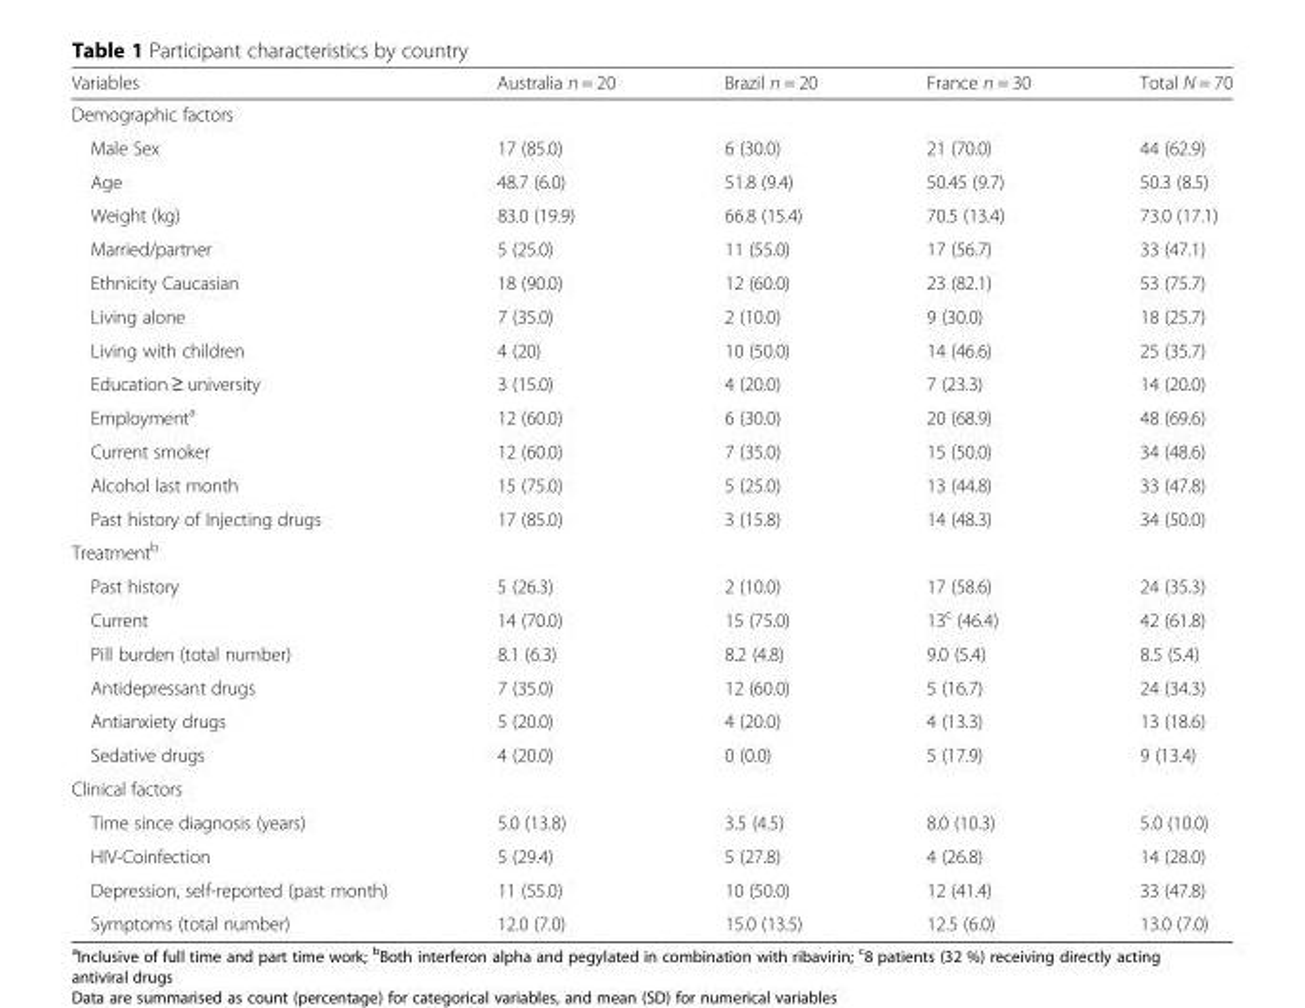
<table><thead><tr><td>Variables</td><td>Australia n = 20</td><td>Brazil n = 20</td><td>France n = 30</td><td>Total N = 70</td></tr></thead><tbody><tr><td colspan="5">Demographic factors</td></tr><tr><td>Male Sex</td><td>17 (85.0)</td><td>6 (30.0)</td><td>21 (70.0)</td><td>44 (62.9)</td></tr><tr><td>Age</td><td>48.7 (6.0)</td><td>51.8 (9.4)</td><td>50.45 (9.7)</td><td>50.3 (8.5)</td></tr><tr><td>Weight (kg)</td><td>83.0 (19.9)</td><td>66.8 (15.4)</td><td>70.5 (13.4)</td><td>73.0 (17.1)</td></tr><tr><td>Married/partner</td><td>5 (25.0)</td><td>11 (55.0)</td><td>17 (56.7)</td><td>33 (47.1)</td></tr><tr><td>Ethnicity Caucasian</td><td>18 (90.0)</td><td>12 (60.0)</td><td>23 (82.1)</td><td>53 (75.7)</td></tr><tr><td>Living alone</td><td>7 (35.0)</td><td>2 (10.0)</td><td>9 (30.0)</td><td>18 (25.7)</td></tr><tr><td>Living with children</td><td>4 (20)</td><td>10 (50.0)</td><td>14 (46.6)</td><td>25 (35.7)</td></tr><tr><td>Education ≥ university</td><td>3 (15.0)</td><td>4 (20.0)</td><td>7 (23.3)</td><td>14 (20.0)</td></tr><tr><td>Employment<sup>a</sup></td><td>12 (60.0)</td><td>6 (30.0)</td><td>20 (68.9)</td><td>48 (69.6)</td></tr><tr><td>Current smoker</td><td>12 (60.0)</td><td>7 (35.0)</td><td>15 (50.0)</td><td>34 (48.6)</td></tr><tr><td>Alcohol last month</td><td>15 (75.0)</td><td>5 (25.0)</td><td>13 (44.8)</td><td>33 (47.8)</td></tr><tr><td>Past history of Injecting drugs</td><td>17 (85.0)</td><td>3 (15.8)</td><td>14 (48.3)</td><td>34 (50.0)</td></tr><tr><td colspan="5">Treatment<sup>b</sup></td></tr><tr><td>Past history</td><td>5 (26.3)</td><td>2 (10.0)</td><td>17 (58.6)</td><td>24 (35.3)</td></tr><tr><td>Current</td><td>14 (70.0)</td><td>15 (75.0)</td><td>13<sup>c</sup> (46.4)</td><td>42 (61.8)</td></tr><tr><td>Pill burden (total number)</td><td>8.1 (6.3)</td><td>8.2 (4.8)</td><td>9.0 (5.4)</td><td>8.5 (5.4)</td></tr><tr><td>Antidepressant drugs</td><td>7 (35.0)</td><td>12 (60.0)</td><td>5 (16.7)</td><td>24 (34.3)</td></tr><tr><td>Antianxiety drugs</td><td>5 (20.0)</td><td>4 (20.0)</td><td>4 (13.3)</td><td>13 (18.6)</td></tr><tr><td>Sedative drugs</td><td>4 (20.0)</td><td>0 (0.0)</td><td>5 (17.9)</td><td>9 (13.4)</td></tr><tr><td colspan="5">Clinical factors</td></tr><tr><td>Time since diagnosis (years)</td><td>5.0 (13.8)</td><td>3.5 (4.5)</td><td>8.0 (10.3)</td><td>5.0 (10.0)</td></tr><tr><td>HIV-Coinfection</td><td>5 (29.4)</td><td>5 (27.8)</td><td>4 (26.8)</td><td>14 (28.0)</td></tr><tr><td>Depression, self-reported (past month)</td><td>11 (55.0)</td><td>10 (50.0)</td><td>12 (41.4)</td><td>33 (47.8)</td></tr><tr><td>Symptoms (total number)</td><td>12.0 (7.0)</td><td>15.0 (13.5)</td><td>12.5 (6.0)</td><td>13.0 (7.0)</td></tr></tbody></table>